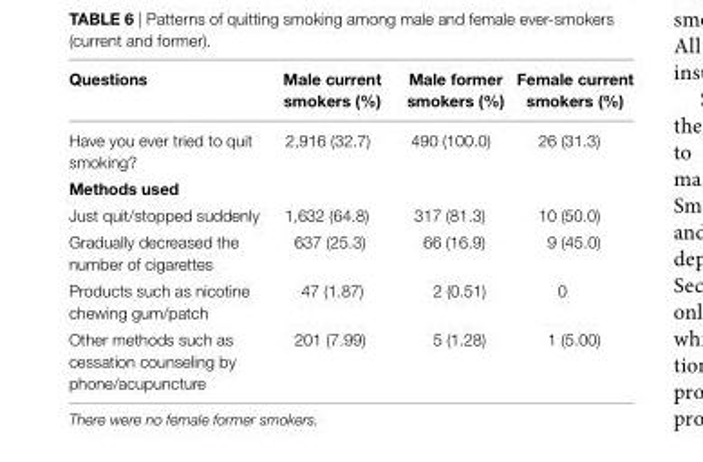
<table><thead><tr><td>Questions</td><td>Male current smokers (%)</td><td>Male former smokers (%)</td><td>Female current smokers (%)</td></tr></thead><tbody><tr><td>Have you ever tried to quit smoking?</td><td>2,916 (32.7)</td><td>490 (100.0)</td><td>26 (31.3)</td></tr><tr><td colspan="4">Methods used</td></tr><tr><td>Just quit/stopped suddenly</td><td>1,632 (64.8)</td><td>317 (81.3)</td><td>10 (50.0)</td></tr><tr><td>Gradually decreased the number of cigarettes</td><td>637 (25.3)</td><td>66 (16.9)</td><td>9 (45.0)</td></tr><tr><td>Products such as nicotine chewing gum/patch</td><td>47 (1.87)</td><td>2 (0.51)</td><td>0</td></tr><tr><td>Other methods such as cessation counseling by phone/acupuncture</td><td>201 (7.99)</td><td>5 (1.28)</td><td>1 (5.00)</td></tr></tbody></table>